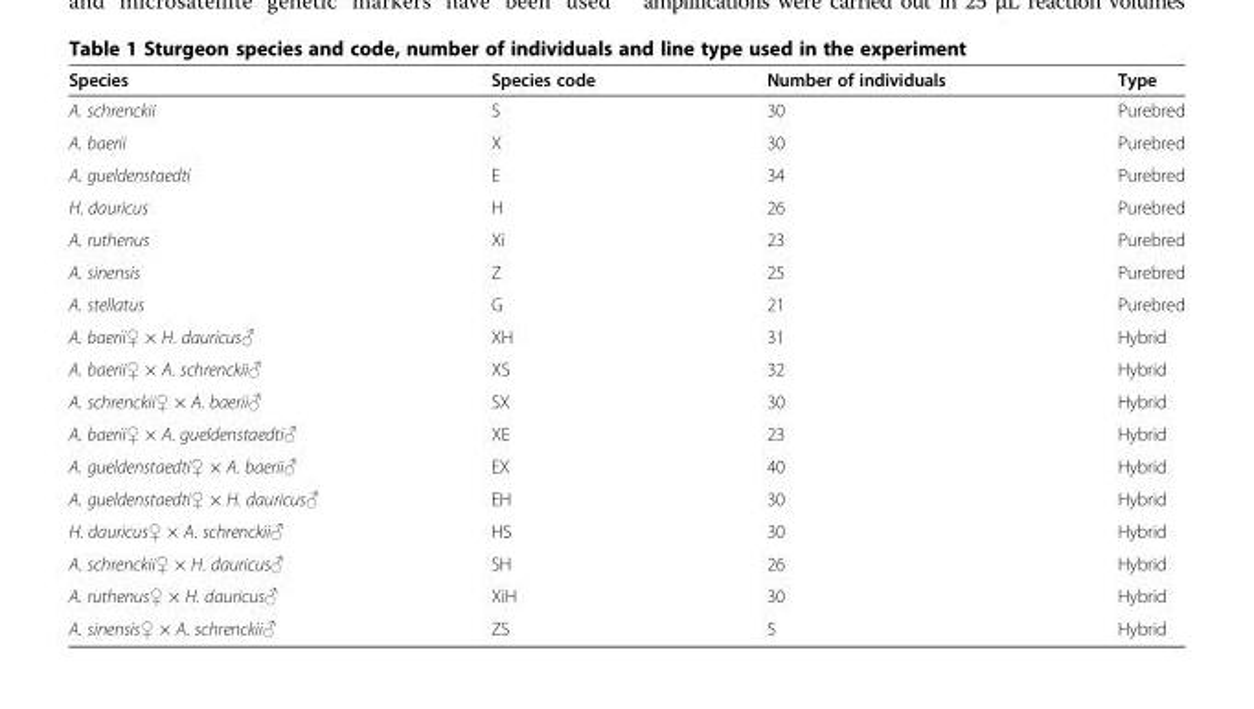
<table><thead><tr><td>Species</td><td>Species code</td><td>Number of individuals</td><td>Type</td></tr></thead><tbody><tr><td>A. schrenckii</td><td>S</td><td>30</td><td>Purebred</td></tr><tr><td>A. baerii</td><td>X</td><td>30</td><td>Purebred</td></tr><tr><td>A. gueldenstaedti</td><td>E</td><td>34</td><td>Purebred</td></tr><tr><td>H. dauricus</td><td>H</td><td>26</td><td>Purebred</td></tr><tr><td>A. ruthenus</td><td>Xi</td><td>23</td><td>Purebred</td></tr><tr><td>A. sinensis</td><td>Z</td><td>25</td><td>Purebred</td></tr><tr><td>A. stellatus</td><td>G</td><td>21</td><td>Purebred</td></tr><tr><td>A. baerii♀ × H. dauricus♂</td><td>XH</td><td>31</td><td>Hybrid</td></tr><tr><td>A. baerii♀ × A. schrenckii♂</td><td>XS</td><td>32</td><td>Hybrid</td></tr><tr><td>A. schrenckii♀ × A. baerii♂</td><td>SX</td><td>30</td><td>Hybrid</td></tr><tr><td>A. baerii♀ × A. gueldenstaedti♂</td><td>XE</td><td>23</td><td>Hybrid</td></tr><tr><td>A. gueldenstaedti♀ × A. baerii♂</td><td>EX</td><td>40</td><td>Hybrid</td></tr><tr><td>A. gueldenstaedti♀ × H. dauricus♂</td><td>EH</td><td>30</td><td>Hybrid</td></tr><tr><td>H. dauricus♀ × A. schrenckii♂</td><td>HS</td><td>30</td><td>Hybrid</td></tr><tr><td>A. schrenckii♀ × H. dauricus♂</td><td>SH</td><td>26</td><td>Hybrid</td></tr><tr><td>A. ruthenus♀ × H. dauricus♂</td><td>XiH</td><td>30</td><td>Hybrid</td></tr><tr><td>A. sinensis♀ × A. schrenckii♂</td><td>ZS</td><td>5</td><td>Hybrid</td></tr></tbody></table>